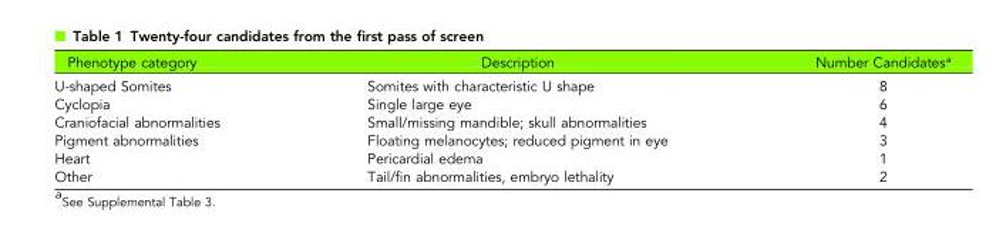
<table><thead><tr><td>Phenotype category</td><td>Description</td><td>Number Candidates<sup>a</sup></td></tr></thead><tbody><tr><td>U-shaped Somites</td><td>Somites with characteristic U shape</td><td>8</td></tr><tr><td>Cyclopia</td><td>Single large eye</td><td>6</td></tr><tr><td>Craniofacial abnormalities</td><td>Small/missing mandible; skull abnormalities</td><td>4</td></tr><tr><td>Pigment abnormalities</td><td>Floating melanocytes; reduced pigment in eye</td><td>3</td></tr><tr><td>Heart</td><td>Pericardial edema</td><td>1</td></tr><tr><td>Other</td><td>Tail/fin abnormalities, embryo lethality</td><td>2</td></tr></tbody></table>